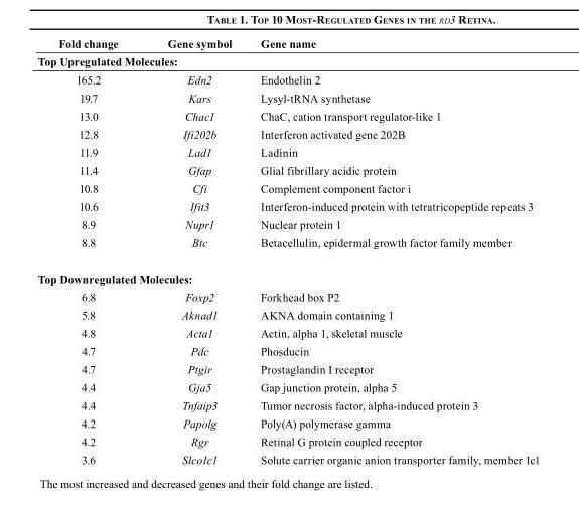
<table><thead><tr><td>Fold change</td><td>Gene symbol</td><td>Gene name</td></tr><tr><td colspan="3">Top Upregulated Molecules:</td></tr></thead><tbody><tr><td>165.2</td><td>Edn2</td><td>Endothelin 2</td></tr><tr><td>19.7</td><td>Kars</td><td>Lysyl-tRNA synthetase</td></tr><tr><td>13.0</td><td>Chac1</td><td>ChaC, cation transport regulator-like 1</td></tr><tr><td>12.8</td><td>Ifi202b</td><td>Interferon activated gene 202B</td></tr><tr><td>11.9</td><td>Lad1</td><td>Ladinin</td></tr><tr><td>11.4</td><td>Gfap</td><td>Glial fibrillary acidic protein</td></tr><tr><td>10.8</td><td>Cfi</td><td>Complement component factor i</td></tr><tr><td>10.6</td><td>Ifit3</td><td>Interferon-induced protein with tetratricopeptide repeats 3</td></tr><tr><td>8.9</td><td>Nupr1</td><td>Nuclear protein 1</td></tr><tr><td>8.8</td><td>Btc</td><td>Betacellulin, epidermal growth factor family member</td></tr><tr><td colspan="3">Top Downregulated Molecules:</td></tr><tr><td>6.8</td><td>Foxp2</td><td>Forkhead box P2</td></tr><tr><td>5.8</td><td>Aknad1</td><td>AKNA domain containing 1</td></tr><tr><td>4.8</td><td>Acta1</td><td>Actin, alpha 1, skeletal muscle</td></tr><tr><td>4.7</td><td>Pdc</td><td>Phosducin</td></tr><tr><td>4.7</td><td>Ptgir</td><td>Prostaglandin I receptor</td></tr><tr><td>4.4</td><td>Gja5</td><td>Gap junction protein, alpha 5</td></tr><tr><td>4.4</td><td>Tnfaip3</td><td>Tumor necrosis factor, alpha-induced protein 3</td></tr><tr><td>4.2</td><td>Papolg</td><td>Poly(A) polymerase gamma</td></tr><tr><td>4.2</td><td>Rgr</td><td>Retinal G protein coupled receptor</td></tr><tr><td>3.6</td><td>Slco1c1</td><td>Solute carrier organic anion transporter family, member 1c1</td></tr></tbody></table>